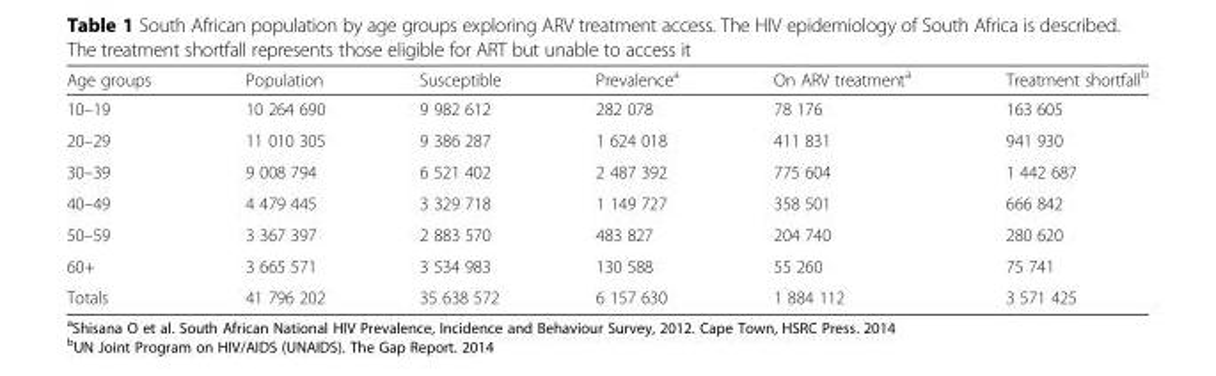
<table><thead><tr><td>Age groups</td><td>Population</td><td>Susceptible</td><td>Prevalence<sup>a</sup></td><td>On ARV treatment<sup>a</sup></td><td>Treatment shortfall<sup>b</sup></td></tr></thead><tbody><tr><td>10–19</td><td>10 264 690</td><td>9 982 612</td><td>282 078</td><td>78 176</td><td>163 605</td></tr><tr><td>20–29</td><td>11 010 305</td><td>9 386 287</td><td>1 624 018</td><td>411 831</td><td>941 930</td></tr><tr><td>30–39</td><td>9 008 794</td><td>6 521 402</td><td>2 487 392</td><td>775 604</td><td>1 442 687</td></tr><tr><td>40–49</td><td>4 479 445</td><td>3 329 718</td><td>1 149 727</td><td>358 501</td><td>666 842</td></tr><tr><td>50–59</td><td>3 367 397</td><td>2 883 570</td><td>483 827</td><td>204 740</td><td>280 620</td></tr><tr><td>60+</td><td>3 665 571</td><td>3 534 983</td><td>130 588</td><td>55 260</td><td>75 741</td></tr><tr><td>Totals</td><td>41 796 202</td><td>35 638 572</td><td>6 157 630</td><td>1 884 112</td><td>3 571 425</td></tr></tbody></table>